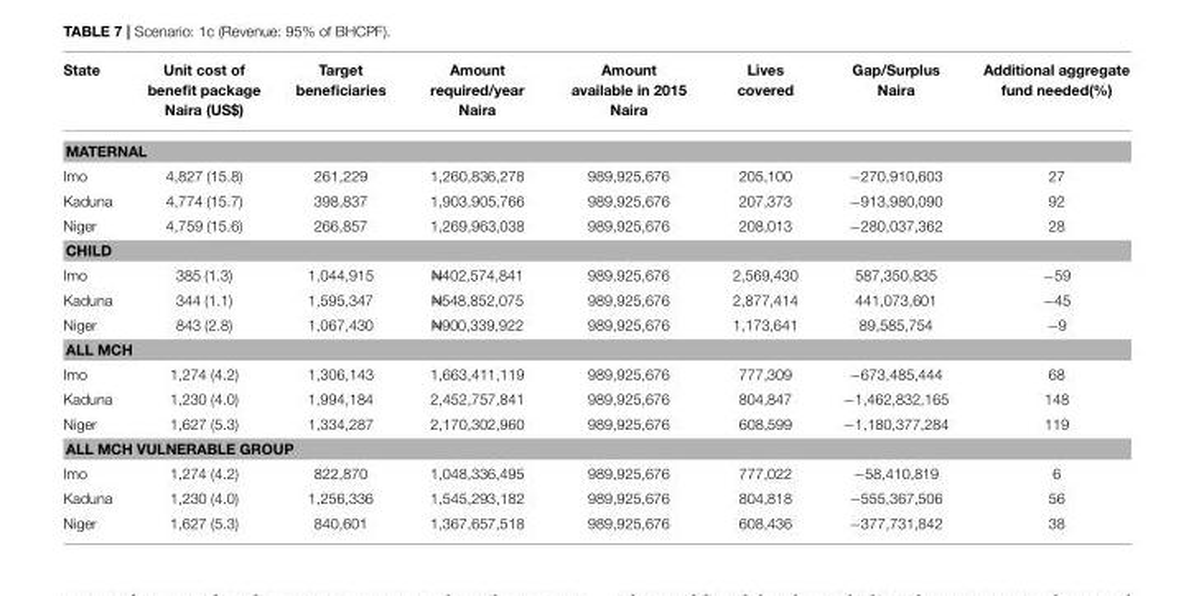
<table><thead><tr><td>State</td><td>Unit cost of benefit package Naira (US$)</td><td>Target beneficiaries</td><td>Amount required/year Naira</td><td>Amount available in 2015 Naira</td><td>Lives covered</td><td>Gap/Surplus Naira</td><td>Additional aggregate fund needed(%)</td></tr></thead><tbody><tr><td colspan="8">MATERNAL</td></tr><tr><td>Imo</td><td>4,827 (15.8)</td><td>261,229</td><td>1,260,836,278</td><td>989,925,676</td><td>205,100</td><td>−270,910,603</td><td>27</td></tr><tr><td>Kaduna</td><td>4,774 (15.7)</td><td>398,837</td><td>1,903,905,766</td><td>989,925,676</td><td>207,373</td><td>−913,980,090</td><td>92</td></tr><tr><td>Niger</td><td>4,759 (15.6)</td><td>266,857</td><td>1,269,963,038</td><td>989,925,676</td><td>208,013</td><td>−280,037,362</td><td>28</td></tr><tr><td colspan="8">CHILD</td></tr><tr><td>Imo</td><td>385 (1.3)</td><td>1,044,915</td><td>=N402,574,841</td><td>989,925,676</td><td>2,569,430</td><td>587,350,835</td><td>−59</td></tr><tr><td>Kaduna</td><td>344 (1.1)</td><td>1,595,347</td><td>=N548,852,075</td><td>989,925,676</td><td>2,877,414</td><td>441,073,601</td><td>−45</td></tr><tr><td>Niger</td><td>843 (2.8)</td><td>1,067,430</td><td>=N900,339,922</td><td>989,925,676</td><td>1,173,641</td><td>89,585,754</td><td>−9</td></tr><tr><td colspan="8">ALL MCH</td></tr><tr><td>Imo</td><td>1,274 (4.2)</td><td>1,306,143</td><td>1,663,411,119</td><td>989,925,676</td><td>777,309</td><td>−673,485,444</td><td>68</td></tr><tr><td>Kaduna</td><td>1,230 (4.0)</td><td>1,994,184</td><td>2,452,757,841</td><td>989,925,676</td><td>804,847</td><td>−1,462,832,165</td><td>148</td></tr><tr><td>Niger</td><td>1,627 (5.3)</td><td>1,334,287</td><td>2,170,302,960</td><td>989,925,676</td><td>608,599</td><td>−1,180,377,284</td><td>119</td></tr><tr><td colspan="8">ALL MCH VULNERABLE GROUP</td></tr><tr><td>Imo</td><td>1,274 (4.2)</td><td>822,870</td><td>1,048,336,495</td><td>989,925,676</td><td>777,022</td><td>−58,410,819</td><td>6</td></tr><tr><td>Kaduna</td><td>1,230 (4.0)</td><td>1,256,336</td><td>1,545,293,182</td><td>989,925,676</td><td>804,818</td><td>−555,367,506</td><td>56</td></tr><tr><td>Niger</td><td>1,627 (5.3)</td><td>840,601</td><td>1,367,657,518</td><td>989,925,676</td><td>608,436</td><td>−377,731,842</td><td>38</td></tr></tbody></table>